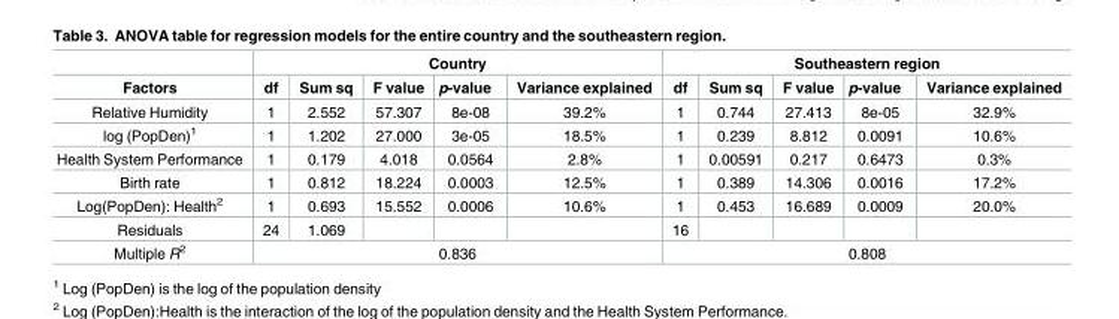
<table><thead><tr><td rowspan="2">Factors</td><td colspan="5">Country</td><td colspan="5">Southeastern region</td></tr><tr><td>df</td><td>Sum sq</td><td>F value</td><td>p-value</td><td>Variance explained</td><td>df</td><td>Sum sq</td><td>F value</td><td>p-value</td><td>Variance explained</td></tr></thead><tbody><tr><td>Relative Humidity</td><td>1</td><td>2.552</td><td>57.307</td><td>8e-08</td><td>39.2%</td><td>1</td><td>0.744</td><td>27.413</td><td>8e-05</td><td>32.9%</td></tr><tr><td>log (PopDen)<sup>1</sup></td><td>1</td><td>1.202</td><td>27.000</td><td>3e-05</td><td>18.5%</td><td>1</td><td>0.239</td><td>8.812</td><td>0.0091</td><td>10.6%</td></tr><tr><td>Health System Performance</td><td>1</td><td>0.179</td><td>4.018</td><td>0.0564</td><td>2.8%</td><td>1</td><td>0.00591</td><td>0.217</td><td>0.6473</td><td>0.3%</td></tr><tr><td>Birth rate</td><td>1</td><td>0.812</td><td>18.224</td><td>0.0003</td><td>12.5%</td><td>1</td><td>0.389</td><td>14.306</td><td>0.0016</td><td>17.2%</td></tr><tr><td>Log(PopDen): Health<sup>2</sup></td><td>1</td><td>0.693</td><td>15.552</td><td>0.0006</td><td>10.6%</td><td>1</td><td>0.453</td><td>16.689</td><td>0.0009</td><td>20.0%</td></tr><tr><td>Residuals</td><td>24</td><td>1.069</td><td></td><td></td><td></td><td>16</td><td></td><td></td><td></td><td></td></tr><tr><td>Multiple R<sup>2</sup></td><td colspan="5">0.836</td><td colspan="5">0.808</td></tr></tbody></table>